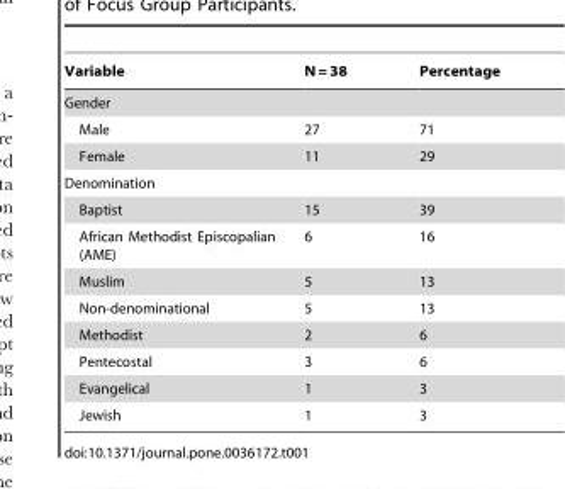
<table><thead><tr><td>Variable</td><td>N = 38</td><td>Percentage</td></tr></thead><tbody><tr><td colspan="3">Gender</td></tr><tr><td>Male</td><td>27</td><td>71</td></tr><tr><td>Female</td><td>11</td><td>29</td></tr><tr><td colspan="3">Denomination</td></tr><tr><td>Baptist</td><td>15</td><td>39</td></tr><tr><td>African Methodist Episcopalian (AME)</td><td>6</td><td>16</td></tr><tr><td>Muslim</td><td>5</td><td>13</td></tr><tr><td>Non-denominational</td><td>5</td><td>13</td></tr><tr><td>Methodist</td><td>2</td><td>6</td></tr><tr><td>Pentecostal</td><td>3</td><td>6</td></tr><tr><td>Evangelical</td><td>1</td><td>3</td></tr><tr><td>Jewish</td><td>1</td><td>3</td></tr></tbody></table>